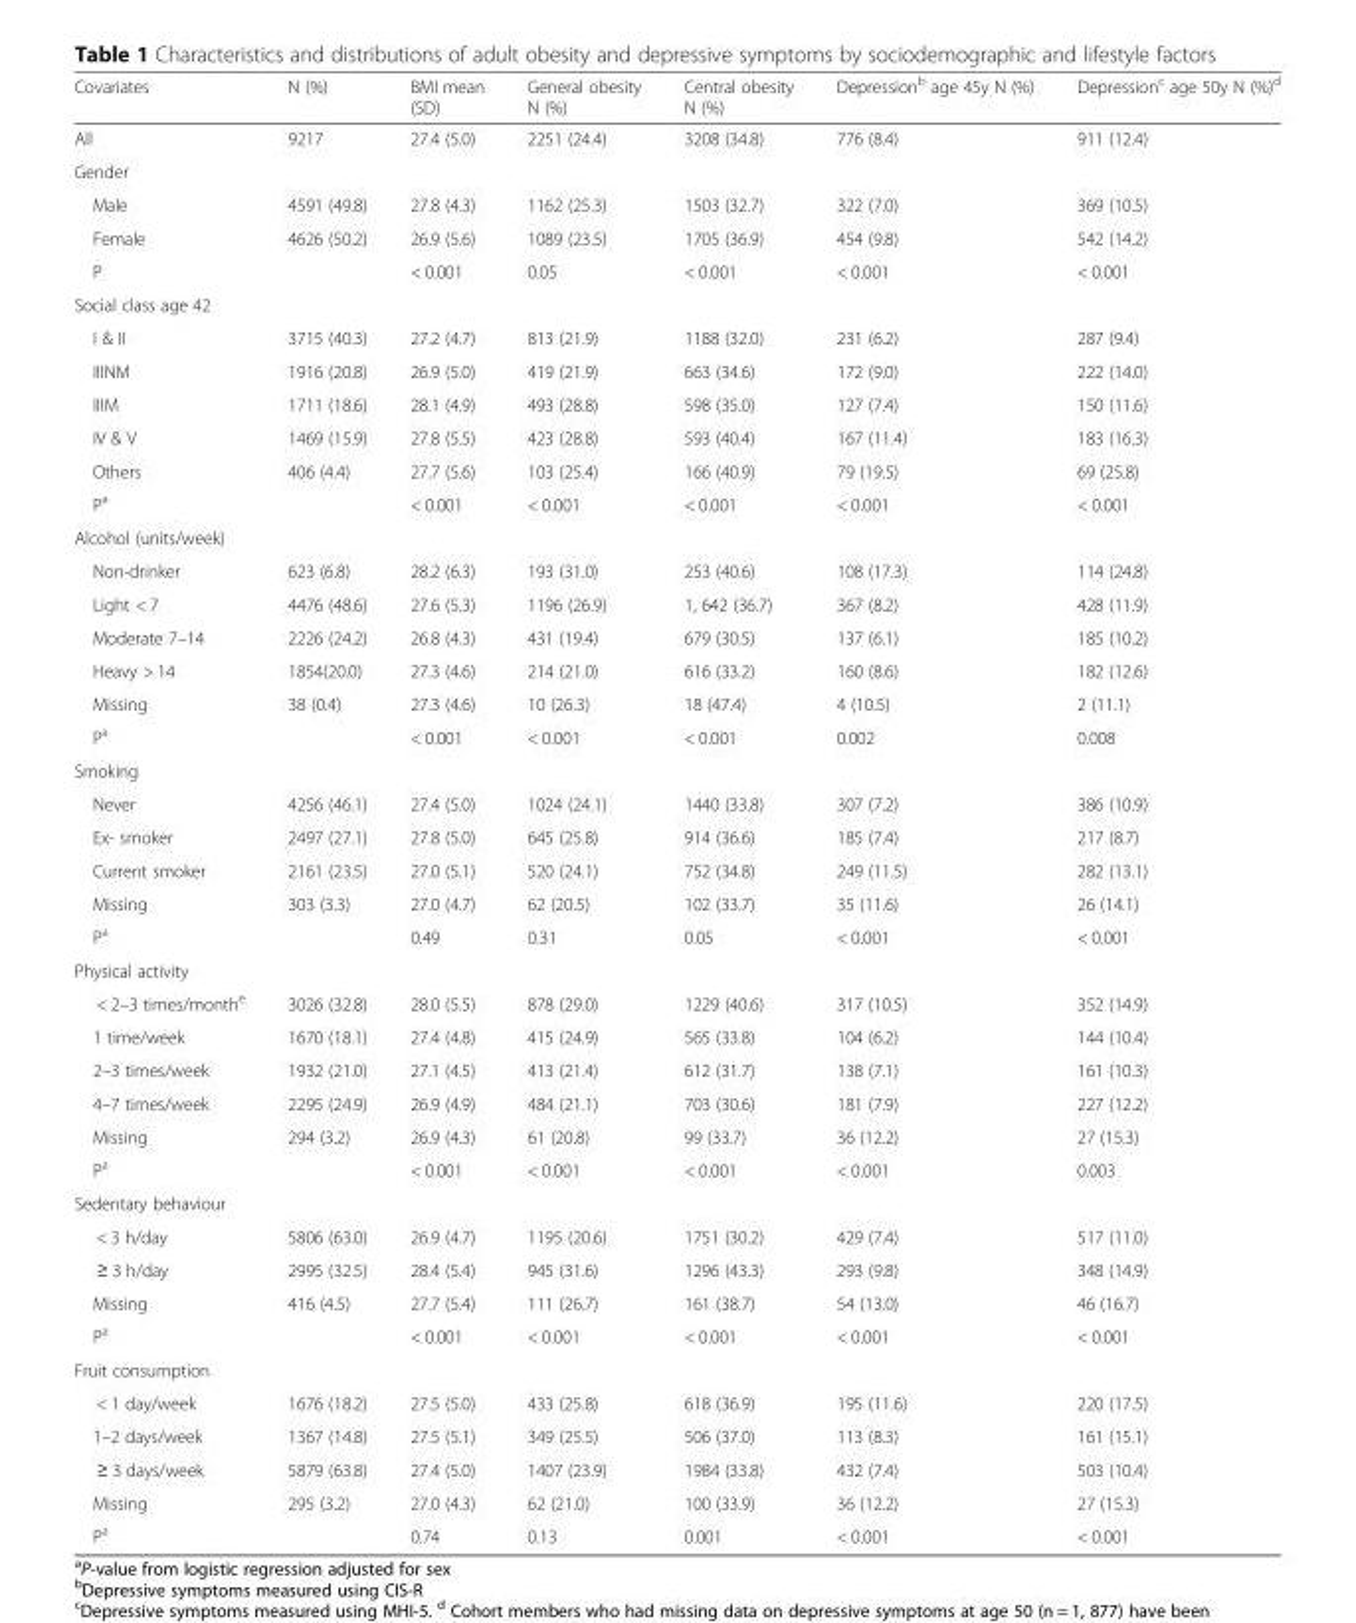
<table><thead><tr><td>Covariates</td><td>N (%)</td><td>BMI mean (SD)</td><td>General obesity N (%)</td><td>Central obesity N (%)</td><td>Depression<sup>b</sup> age 45y N (%)</td><td>Depression<sup>c</sup> age 50y N (%)<sup>d</sup></td></tr></thead><tbody><tr><td>All</td><td>9217</td><td>27.4 (5.0)</td><td>2251 (24.4)</td><td>3208 (34.8)</td><td>776 (8.4)</td><td>911 (12.4)</td></tr><tr><td colspan="7">Gender</td></tr><tr><td>Male</td><td>4591 (49.8)</td><td>27.8 (4.3)</td><td>1162 (25.3)</td><td>1503 (32.7)</td><td>322 (7.0)</td><td>369 (10.5)</td></tr><tr><td>Female</td><td>4626 (50.2)</td><td>26.9 (5.6)</td><td>1089 (23.5)</td><td>1705 (36.9)</td><td>454 (9.8)</td><td>542 (14.2)</td></tr><tr><td>P</td><td></td><td>&lt; 0.001</td><td>0.05</td><td>&lt; 0.001</td><td>&lt; 0.001</td><td>&lt; 0.001</td></tr><tr><td colspan="7">Social class age 42</td></tr><tr><td>I &amp; II</td><td>3715 (40.3)</td><td>27.2 (4.7)</td><td>813 (21.9)</td><td>1188 (32.0)</td><td>231 (6.2)</td><td>287 (9.4)</td></tr><tr><td>IIINM</td><td>1916 (20.8)</td><td>26.9 (5.0)</td><td>419 (21.9)</td><td>663 (34.6)</td><td>172 (9.0)</td><td>222 (14.0)</td></tr><tr><td>IIIM</td><td>1711 (18.6)</td><td>28.1 (4.9)</td><td>493 (28.8)</td><td>598 (35.0)</td><td>127 (7.4)</td><td>150 (11.6)</td></tr><tr><td>IV &amp; V</td><td>1469 (15.9)</td><td>27.8 (5.5)</td><td>423 (28.8)</td><td>593 (40.4)</td><td>167 (11.4)</td><td>183 (16.3)</td></tr><tr><td>Others</td><td>406 (4.4)</td><td>27.7 (5.6)</td><td>103 (25.4)</td><td>166 (40.9)</td><td>79 (19.5)</td><td>69 (25.8)</td></tr><tr><td>P<sup>a</sup></td><td></td><td>&lt; 0.001</td><td>&lt; 0.001</td><td>&lt; 0.001</td><td>&lt; 0.001</td><td>&lt; 0.001</td></tr><tr><td colspan="7">Alcohol (units/week)</td></tr><tr><td>Non-drinker</td><td>623 (6.8)</td><td>28.2 (6.3)</td><td>193 (31.0)</td><td>253 (40.6)</td><td>108 (17.3)</td><td>114 (24.8)</td></tr><tr><td>Light &lt; 7</td><td>4476 (48.6)</td><td>27.6 (5.3)</td><td>1196 (26.9)</td><td>1, 642 (36.7)</td><td>367 (8.2)</td><td>428 (11.9)</td></tr><tr><td>Moderate 7–14</td><td>2226 (24.2)</td><td>26.8 (4.3)</td><td>431 (19.4)</td><td>679 (30.5)</td><td>137 (6.1)</td><td>185 (10.2)</td></tr><tr><td>Heavy &gt; 14</td><td>1854(20.0)</td><td>27.3 (4.6)</td><td>214 (21.0)</td><td>616 (33.2)</td><td>160 (8.6)</td><td>182 (12.6)</td></tr><tr><td>Missing</td><td>38 (0.4)</td><td>27.3 (4.6)</td><td>10 (26.3)</td><td>18 (47.4)</td><td>4 (10.5)</td><td>2 (11.1)</td></tr><tr><td>P<sup>a</sup></td><td></td><td>&lt; 0.001</td><td>&lt; 0.001</td><td>&lt; 0.001</td><td>0.002</td><td>0.008</td></tr><tr><td colspan="7">Smoking</td></tr><tr><td>Never</td><td>4256 (46.1)</td><td>27.4 (5.0)</td><td>1024 (24.1)</td><td>1440 (33.8)</td><td>307 (7.2)</td><td>386 (10.9)</td></tr><tr><td>Ex- smoker</td><td>2497 (27.1)</td><td>27.8 (5.0)</td><td>645 (25.8)</td><td>914 (36.6)</td><td>185 (7.4)</td><td>217 (8.7)</td></tr><tr><td>Current smoker</td><td>2161 (23.5)</td><td>27.0 (5.1)</td><td>520 (24.1)</td><td>752 (34.8)</td><td>249 (11.5)</td><td>282 (13.1)</td></tr><tr><td>Missing</td><td>303 (3.3)</td><td>27.0 (4.7)</td><td>62 (20.5)</td><td>102 (33.7)</td><td>35 (11.6)</td><td>26 (14.1)</td></tr><tr><td>P<sup>a</sup></td><td></td><td>0.49</td><td>0.31</td><td>0.05</td><td>&lt; 0.001</td><td>&lt; 0.001</td></tr><tr><td colspan="7">Physical activity</td></tr><tr><td>&lt; 2–3 times/month<sup>e</sup></td><td>3026 (32.8)</td><td>28.0 (5.5)</td><td>878 (29.0)</td><td>1229 (40.6)</td><td>317 (10.5)</td><td>352 (14.9)</td></tr><tr><td>1 time/week</td><td>1670 (18.1)</td><td>27.4 (4.8)</td><td>415 (24.9)</td><td>565 (33.8)</td><td>104 (6.2)</td><td>144 (10.4)</td></tr><tr><td>2–3 times/week</td><td>1932 (21.0)</td><td>27.1 (4.5)</td><td>413 (21.4)</td><td>612 (31.7)</td><td>138 (7.1)</td><td>161 (10.3)</td></tr><tr><td>4–7 times/week</td><td>2295 (24.9)</td><td>26.9 (4.9)</td><td>484 (21.1)</td><td>703 (30.6)</td><td>181 (7.9)</td><td>227 (12.2)</td></tr><tr><td>Missing</td><td>294 (3.2)</td><td>26.9 (4.3)</td><td>61 (20.8)</td><td>99 (33.7)</td><td>36 (12.2)</td><td>27 (15.3)</td></tr><tr><td>P<sup>a</sup></td><td></td><td>&lt; 0.001</td><td>&lt; 0.001</td><td>&lt; 0.001</td><td>&lt; 0.001</td><td>0.003</td></tr><tr><td colspan="7">Sedentary behaviour</td></tr><tr><td>&lt; 3 h/day</td><td>5806 (63.0)</td><td>26.9 (4.7)</td><td>1195 (20.6)</td><td>1751 (30.2)</td><td>429 (7.4)</td><td>517 (11.0)</td></tr><tr><td>≥ 3 h/day</td><td>2995 (32.5)</td><td>28.4 (5.4)</td><td>945 (31.6)</td><td>1296 (43.3)</td><td>293 (9.8)</td><td>348 (14.9)</td></tr><tr><td>Missing</td><td>416 (4.5)</td><td>27.7 (5.4)</td><td>111 (26.7)</td><td>161 (38.7)</td><td>54 (13.0)</td><td>46 (16.7)</td></tr><tr><td>P<sup>a</sup></td><td></td><td>&lt; 0.001</td><td>&lt; 0.001</td><td>&lt; 0.001</td><td>&lt; 0.001</td><td>&lt; 0.001</td></tr><tr><td colspan="7">Fruit consumption</td></tr><tr><td>&lt; 1 day/week</td><td>1676 (18.2)</td><td>27.5 (5.0)</td><td>433 (25.8)</td><td>618 (36.9)</td><td>195 (11.6)</td><td>220 (17.5)</td></tr><tr><td>1–2 days/week</td><td>1367 (14.8)</td><td>27.5 (5.1)</td><td>349 (25.5)</td><td>506 (37.0)</td><td>113 (8.3)</td><td>161 (15.1)</td></tr><tr><td>≥ 3 days/week</td><td>5879 (63.8)</td><td>27.4 (5.0)</td><td>1407 (23.9)</td><td>1984 (33.8)</td><td>432 (7.4)</td><td>503 (10.4)</td></tr><tr><td>Missing</td><td>295 (3.2)</td><td>27.0 (4.3)</td><td>62 (21.0)</td><td>100 (33.9)</td><td>36 (12.2)</td><td>27 (15.3)</td></tr><tr><td>P<sup>a</sup></td><td></td><td>0.74</td><td>0.13</td><td>0.001</td><td>&lt; 0.001</td><td>&lt; 0.001</td></tr></tbody></table>